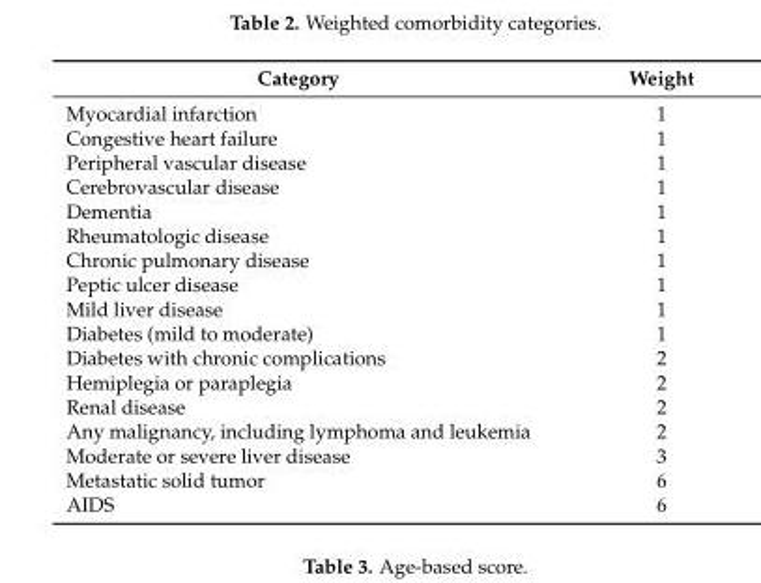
<table><thead><tr><td>Category</td><td>Weight</td></tr></thead><tbody><tr><td>Myocardial infarction</td><td>1</td></tr><tr><td>Congestive heart failure</td><td>1</td></tr><tr><td>Peripheral vascular disease</td><td>1</td></tr><tr><td>Cerebrovascular disease</td><td>1</td></tr><tr><td>Dementia</td><td>1</td></tr><tr><td>Rheumatologic disease</td><td>1</td></tr><tr><td>Chronic pulmonary disease</td><td>1</td></tr><tr><td>Peptic ulcer disease</td><td>1</td></tr><tr><td>Mild liver disease</td><td>1</td></tr><tr><td>Diabetes (mild to moderate)</td><td>1</td></tr><tr><td>Diabetes with chronic complications</td><td>2</td></tr><tr><td>Hemiplegia or paraplegia</td><td>2</td></tr><tr><td>Renal disease</td><td>2</td></tr><tr><td>Any malignancy, including lymphoma and leukemia</td><td>2</td></tr><tr><td>Moderate or severe liver disease</td><td>3</td></tr><tr><td>Metastatic solid tumor</td><td>6</td></tr><tr><td>AIDS</td><td>6</td></tr></tbody></table>